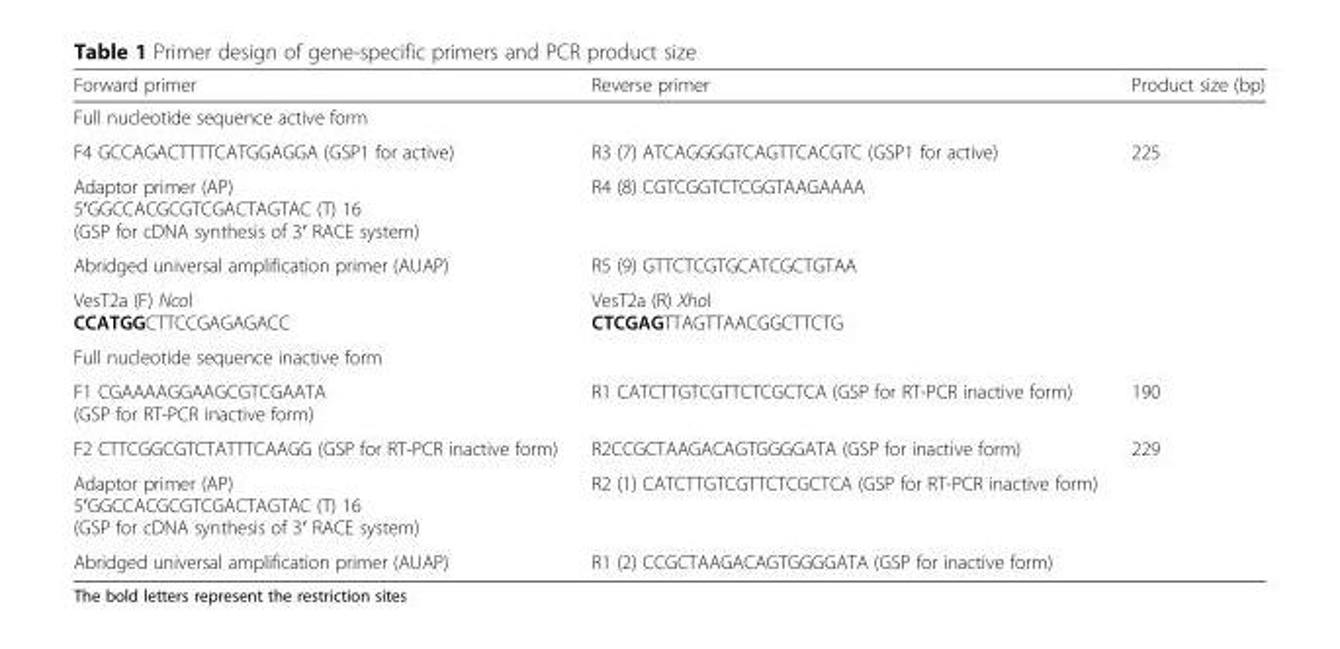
<table><thead><tr><td>Forward primer</td><td>Reverse primer</td><td>Product size (bp)</td></tr></thead><tbody><tr><td colspan="3">Full nucleotide sequence active form</td></tr><tr><td>F4 GCCAGACTTTTCATGGAGGA (GSP1 for active)</td><td>R3 (7) ATCAGGGGTCAGTTCACGTC (GSP1 for active)</td><td>225</td></tr><tr><td>Adaptor primer (AP) 5′GGCCACGCGTCGACTAGTAC (T) 16 (GSP for cDNA synthesis of 3′ RACE system)</td><td>R4 (8) CGTCGGTCTCGGTAAGAAAA</td><td></td></tr><tr><td>Abridged universal amplification primer (AUAP)</td><td>R5 (9) GTTCTCGTGCATCGCTGTAA</td><td></td></tr><tr><td>VesT2a (F) NcoI CCATGGCTTCCGAGAGACC</td><td>VesT2a (R) XhoI CTCGAGTTAGTTAACGGCTTCTG</td><td></td></tr><tr><td colspan="3">Full nucleotide sequence inactive form</td></tr><tr><td>F1 CGAAAAGGAAGCGTCGAATA (GSP for RT-PCR inactive form)</td><td>R1 CATCTTGTCGTTCTCGCTCA (GSP for RT-PCR inactive form)</td><td>190</td></tr><tr><td>F2 CTTCGGCGTCTATTTCAAGG (GSP for RT-PCR inactive form)</td><td>R2CCGCTAAGACAGTGGGGATA (GSP for inactive form)</td><td>229</td></tr><tr><td>Adaptor primer (AP) 5′GGCCACGCGTCGACTAGTAC (T) 16 (GSP for cDNA synthesis of 3′ RACE system)</td><td>R2 (1) CATCTTGTCGTTCTCGCTCA (GSP for RT-PCR inactive form)</td><td></td></tr><tr><td>Abridged universal amplification primer (AUAP)</td><td>R1 (2) CCGCTAAGACAGTGGGGATA (GSP for inactive form)</td><td></td></tr></tbody></table>